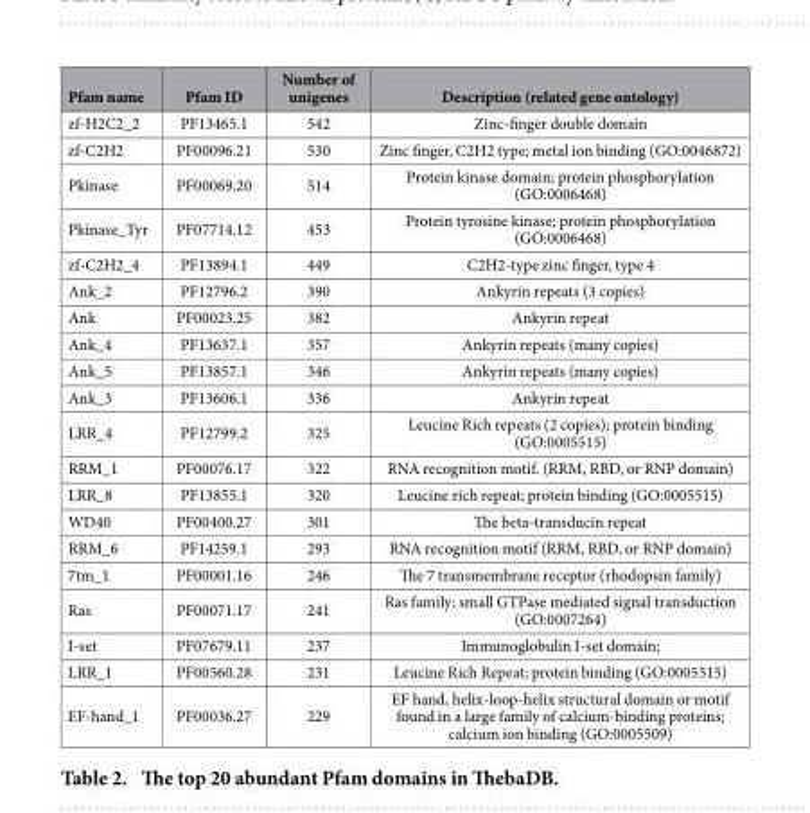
<table><thead><tr><td>Pfam name</td><td>Pfam ID</td><td>Number of unigenes</td><td>Description (related gene ontology)</td></tr></thead><tbody><tr><td>zf-H2C2_2</td><td>PF13465.1</td><td>542</td><td>Zinc-finger double domain</td></tr><tr><td>zf-C2H2</td><td>PF00096.21</td><td>530</td><td>Zinc finger, C2H2 type; metal ion binding (GO:0046872)</td></tr><tr><td>Pkinase</td><td>PF00069.20</td><td>514</td><td>Protein kinase domain; protein phosphorylation (GO:0006468)</td></tr><tr><td>Pkinase_Tyr</td><td>PF07714.12</td><td>453</td><td>Protein tyrosine kinase; protein phosphorylation (GO:0006468)</td></tr><tr><td>zf-C2H2_4</td><td>PF13894.1</td><td>449</td><td>C2H2-type zinc finger, type 4</td></tr><tr><td>Ank_2</td><td>PF12796.2</td><td>390</td><td>Ankyrin repeats (3 copies)</td></tr><tr><td>Ank</td><td>PF00023.25</td><td>382</td><td>Ankyrin repeat</td></tr><tr><td>Ank_4</td><td>PF13637.1</td><td>357</td><td>Ankyrin repeats (many copies)</td></tr><tr><td>Ank_5</td><td>PF13857.1</td><td>346</td><td>Ankyrin repeats (many copies)</td></tr><tr><td>Ank_3</td><td>PF13606.1</td><td>336</td><td>Ankyrin repeat</td></tr><tr><td>LRR_4</td><td>PF12799.2</td><td>325</td><td>Leucine Rich repeats (2 copies); protein binding (GO:0005515)</td></tr><tr><td>RRM_1</td><td>PF00076.17</td><td>322</td><td>RNA recognition motif. (RRM, RBD, or RNP domain)</td></tr><tr><td>LRR_8</td><td>PF13855.1</td><td>320</td><td>Leucine rich repeat; protein binding (GO:0005515)</td></tr><tr><td>WD40</td><td>PF00400.27</td><td>301</td><td>The beta-transducin repeat</td></tr><tr><td>RRM_6</td><td>PF14259.1</td><td>293</td><td>RNA recognition motif (RRM, RBD, or RNP domain)</td></tr><tr><td>7tm_1</td><td>PF00001.16</td><td>246</td><td>The 7 transmembrane receptor (rhodopsin family)</td></tr><tr><td>Ras</td><td>PF00071.17</td><td>241</td><td>Ras family; small GTPase mediated signal transduction (GO:0007264)</td></tr><tr><td>I-set</td><td>PF07679.11</td><td>237</td><td>Immunoglobulin I-set domain;</td></tr><tr><td>LRR_1</td><td>PF00560.28</td><td>231</td><td>Leucine Rich Repeat; protein binding (GO:0005515)</td></tr><tr><td>EF-hand_1</td><td>PF00036.27</td><td>229</td><td>EF hand, helix-loop-helix structural domain or motif found in a large family of calcium-binding proteins; calcium ion binding (GO:0005509)</td></tr></tbody></table>